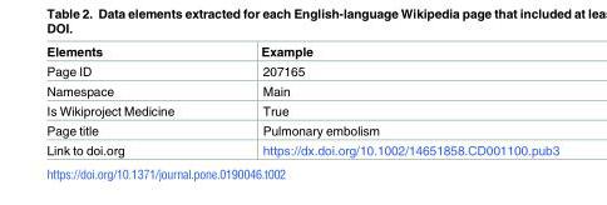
<table><thead><tr><td>Elements</td><td>Example</td></tr></thead><tbody><tr><td>Page ID</td><td>207165</td></tr><tr><td>Namespace</td><td>Main</td></tr><tr><td>Is Wikiproject Medicine</td><td>True</td></tr><tr><td>Page title</td><td>Pulmonary embolism</td></tr><tr><td>Link to doi.org</td><td>https://dx.doi.org/10.1002/14651858.CD001100.pub3</td></tr></tbody></table>